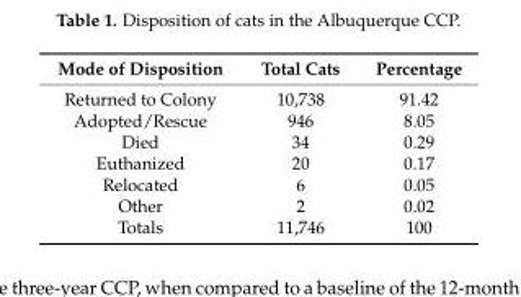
<table><thead><tr><td>Mode of Disposition</td><td>Total Cats</td><td>Percentage</td></tr></thead><tbody><tr><td>Returned to Colony</td><td>10,738</td><td>91.42</td></tr><tr><td>Adopted/Rescue</td><td>946</td><td>8.05</td></tr><tr><td>Died</td><td>34</td><td>0.29</td></tr><tr><td>Euthanized</td><td>20</td><td>0.17</td></tr><tr><td>Relocated</td><td>6</td><td>0.05</td></tr><tr><td>Other</td><td>2</td><td>0.02</td></tr><tr><td>Totals</td><td>11,746</td><td>100</td></tr></tbody></table>